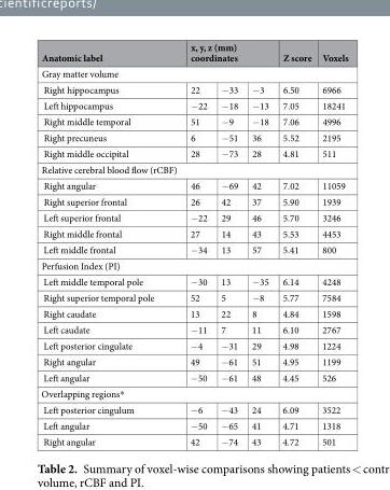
<table><thead><tr><td>Anatomic label</td><td colspan="3">x, y, z (mm) coordinates</td><td>Z score</td><td>Voxels</td></tr><tr><td colspan="6">Gray matter volume</td></tr><tr><td>Right hippocampus</td><td>22</td><td>−33</td><td>−3</td><td>6.50</td><td>6966</td></tr></thead><tbody><tr><td>Left hippocampus</td><td>−22</td><td>−18</td><td>−13</td><td>7.05</td><td>18241</td></tr><tr><td>Right middle temporal</td><td>51</td><td>−9</td><td>−18</td><td>7.06</td><td>4996</td></tr><tr><td>Right precuneus</td><td>6</td><td>−51</td><td>36</td><td>5.52</td><td>2195</td></tr><tr><td>Right middle occipital</td><td>28</td><td>−73</td><td>28</td><td>4.81</td><td>511</td></tr><tr><td colspan="6">Relative cerebral blood flow (rCBF)</td></tr><tr><td>Right angular</td><td>46</td><td>−69</td><td>42</td><td>7.02</td><td>11059</td></tr><tr><td>Right superior frontal</td><td>26</td><td>42</td><td>37</td><td>5.90</td><td>1939</td></tr><tr><td>Left superior frontal</td><td>−22</td><td>29</td><td>46</td><td>5.70</td><td>3246</td></tr><tr><td>Right middle frontal</td><td>27</td><td>14</td><td>43</td><td>5.53</td><td>4453</td></tr><tr><td>Left middle frontal</td><td>−34</td><td>13</td><td>57</td><td>5.41</td><td>800</td></tr><tr><td colspan="6">Perfusion Index (PI)</td></tr><tr><td>Left middle temporal pole</td><td>−30</td><td>13</td><td>−35</td><td>6.14</td><td>4248</td></tr><tr><td>Right superior temporal pole</td><td>52</td><td>5</td><td>−8</td><td>5.77</td><td>7584</td></tr><tr><td>Right caudate</td><td>13</td><td>22</td><td>8</td><td>4.84</td><td>1598</td></tr><tr><td>Left caudate</td><td>−11</td><td>7</td><td>11</td><td>6.10</td><td>2767</td></tr><tr><td>Left posterior cingulate</td><td>−4</td><td>−31</td><td>29</td><td>4.98</td><td>1224</td></tr><tr><td>Right angular</td><td>49</td><td>−61</td><td>51</td><td>4.95</td><td>1199</td></tr><tr><td>Left angular</td><td>−50</td><td>−61</td><td>48</td><td>4.45</td><td>526</td></tr><tr><td colspan="6">Overlapping regions*</td></tr><tr><td>Left posterior cingulum</td><td>−6</td><td>−43</td><td>24</td><td>6.09</td><td>3522</td></tr><tr><td>Left angular</td><td>−50</td><td>−65</td><td>41</td><td>4.71</td><td>1318</td></tr><tr><td>Right angular</td><td>42</td><td>−74</td><td>43</td><td>4.72</td><td>501</td></tr></tbody></table>